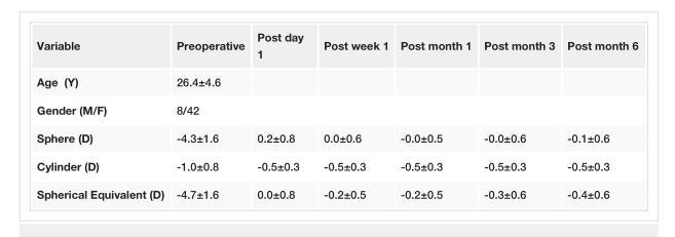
<table><tbody><tr><td>Variable</td><td>Preoperative</td><td>Post day 1</td><td>Post week 1</td><td>Post month 1</td><td>Post month 3</td><td>Post month 6</td></tr><tr><td>Age (Y)</td><td>26.4±4.6</td><td></td><td></td><td></td><td></td><td></td></tr><tr><td>Gender (M/F)</td><td>8/42</td><td></td><td></td><td></td><td></td><td></td></tr><tr><td>Sphere (D)</td><td>-4.3±1.6</td><td>0.2±0.8</td><td>0.0±0.6</td><td>-0.0±0.5</td><td>-0.0±0.6</td><td>-0.1±0.6</td></tr><tr><td>Cylinder (D)</td><td>-1.0±0.8</td><td>-0.5±0.3</td><td>-0.5±0.3</td><td>-0.5±0.3</td><td>-0.5±0.3</td><td>-0.5±0.3</td></tr><tr><td>Spherical Equivalent (D)</td><td>-4.7±1.6</td><td>0.0±0.8</td><td>-0.2±0.5</td><td>-0.2±0.5</td><td>-0.3±0.6</td><td>-0.4±0.6</td></tr></tbody></table>